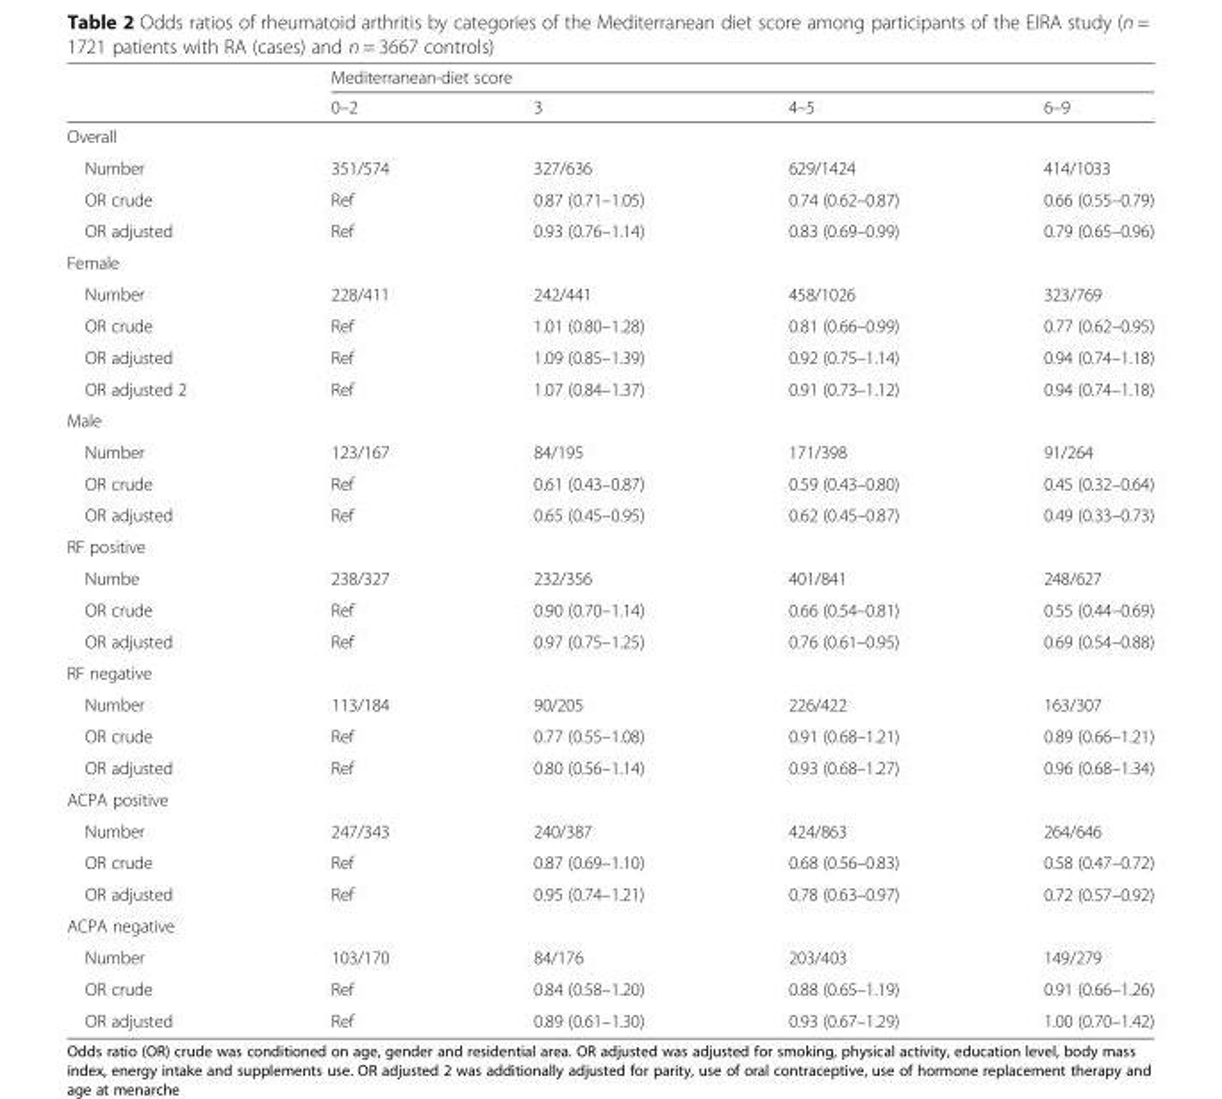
<table><thead><tr><td rowspan="2"></td><td colspan="4">Mediterranean-diet score</td></tr><tr><td>0–2</td><td>3</td><td>4–5</td><td>6–9</td></tr></thead><tbody><tr><td colspan="5">Overall</td></tr><tr><td>Number</td><td>351/574</td><td>327/636</td><td>629/1424</td><td>414/1033</td></tr><tr><td>OR crude</td><td>Ref</td><td>0.87 (0.71–1.05)</td><td>0.74 (0.62–0.87)</td><td>0.66 (0.55–0.79)</td></tr><tr><td>OR adjusted</td><td>Ref</td><td>0.93 (0.76–1.14)</td><td>0.83 (0.69–0.99)</td><td>0.79 (0.65–0.96)</td></tr><tr><td colspan="5">Female</td></tr><tr><td>Number</td><td>228/411</td><td>242/441</td><td>458/1026</td><td>323/769</td></tr><tr><td>OR crude</td><td>Ref</td><td>1.01 (0.80–1.28)</td><td>0.81 (0.66–0.99)</td><td>0.77 (0.62–0.95)</td></tr><tr><td>OR adjusted</td><td>Ref</td><td>1.09 (0.85–1.39)</td><td>0.92 (0.75–1.14)</td><td>0.94 (0.74–1.18)</td></tr><tr><td>OR adjusted 2</td><td>Ref</td><td>1.07 (0.84–1.37)</td><td>0.91 (0.73–1.12)</td><td>0.94 (0.74–1.18)</td></tr><tr><td colspan="5">Male</td></tr><tr><td>Number</td><td>123/167</td><td>84/195</td><td>171/398</td><td>91/264</td></tr><tr><td>OR crude</td><td>Ref</td><td>0.61 (0.43–0.87)</td><td>0.59 (0.43–0.80)</td><td>0.45 (0.32–0.64)</td></tr><tr><td>OR adjusted</td><td>Ref</td><td>0.65 (0.45–0.95)</td><td>0.62 (0.45–0.87)</td><td>0.49 (0.33–0.73)</td></tr><tr><td colspan="5">RF positive</td></tr><tr><td>Numbe</td><td>238/327</td><td>232/356</td><td>401/841</td><td>248/627</td></tr><tr><td>OR crude</td><td>Ref</td><td>0.90 (0.70–1.14)</td><td>0.66 (0.54–0.81)</td><td>0.55 (0.44–0.69)</td></tr><tr><td>OR adjusted</td><td>Ref</td><td>0.97 (0.75–1.25)</td><td>0.76 (0.61–0.95)</td><td>0.69 (0.54–0.88)</td></tr><tr><td colspan="5">RF negative</td></tr><tr><td>Number</td><td>113/184</td><td>90/205</td><td>226/422</td><td>163/307</td></tr><tr><td>OR crude</td><td>Ref</td><td>0.77 (0.55–1.08)</td><td>0.91 (0.68–1.21)</td><td>0.89 (0.66–1.21)</td></tr><tr><td>OR adjusted</td><td>Ref</td><td>0.80 (0.56–1.14)</td><td>0.93 (0.68–1.27)</td><td>0.96 (0.68–1.34)</td></tr><tr><td colspan="5">ACPA positive</td></tr><tr><td>Number</td><td>247/343</td><td>240/387</td><td>424/863</td><td>264/646</td></tr><tr><td>OR crude</td><td>Ref</td><td>0.87 (0.69–1.10)</td><td>0.68 (0.56–0.83)</td><td>0.58 (0.47–0.72)</td></tr><tr><td>OR adjusted</td><td>Ref</td><td>0.95 (0.74–1.21)</td><td>0.78 (0.63–0.97)</td><td>0.72 (0.57–0.92)</td></tr><tr><td colspan="5">ACPA negative</td></tr><tr><td>Number</td><td>103/170</td><td>84/176</td><td>203/403</td><td>149/279</td></tr><tr><td>OR crude</td><td>Ref</td><td>0.84 (0.58–1.20)</td><td>0.88 (0.65–1.19)</td><td>0.91 (0.66–1.26)</td></tr><tr><td>OR adjusted</td><td>Ref</td><td>0.89 (0.61–1.30)</td><td>0.93 (0.67–1.29)</td><td>1.00 (0.70–1.42)</td></tr></tbody></table>